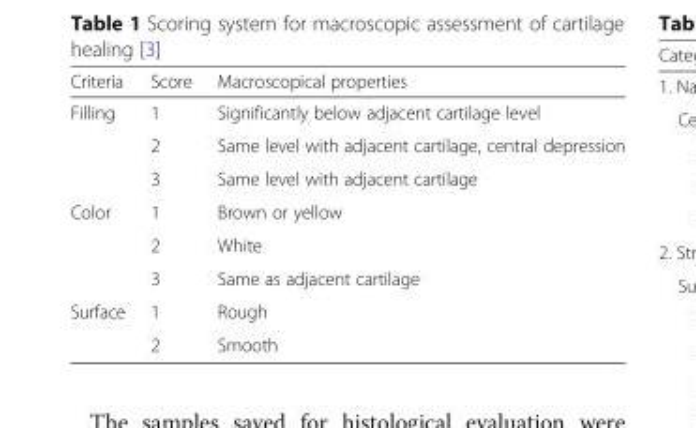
<table><thead><tr><td>Criteria</td><td>Score</td><td>Macroscopical properties</td></tr></thead><tbody><tr><td rowspan="3">Filling</td><td>1</td><td>Significantly below adjacent cartilage level</td></tr><tr><td>2</td><td>Same level with adjacent cartilage, central depression</td></tr><tr><td>3</td><td>Same level with adjacent cartilage</td></tr><tr><td rowspan="3">Color</td><td>1</td><td>Brown or yellow</td></tr><tr><td>2</td><td>White</td></tr><tr><td>3</td><td>Same as adjacent cartilage</td></tr><tr><td rowspan="2">Surface</td><td>1</td><td>Rough</td></tr><tr><td>2</td><td>Smooth</td></tr></tbody></table>